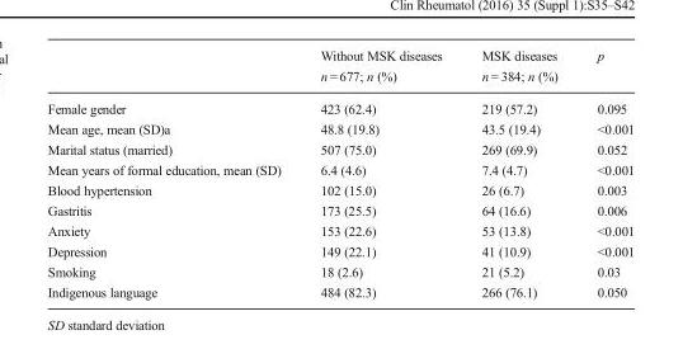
<table><thead><tr><td></td><td>Without MSK diseases n = 677; n (%)</td><td>MSK diseases n = 384; n (%)</td><td>p</td></tr></thead><tbody><tr><td>Female gender</td><td>423 (62.4)</td><td>219 (57.2)</td><td>0.095</td></tr><tr><td>Mean age, mean (SD)a</td><td>48.8 (19.8)</td><td>43.5 (19.4)</td><td>&lt;0.001</td></tr><tr><td>Marital status (married)</td><td>507 (75.0)</td><td>269 (69.9)</td><td>0.052</td></tr><tr><td>Mean years of formal education, mean (SD)</td><td>6.4 (4.6)</td><td>7.4 (4.7)</td><td>&lt;0.001</td></tr><tr><td>Blood hypertension</td><td>102 (15.0)</td><td>26 (6.7)</td><td>0.003</td></tr><tr><td>Gastritis</td><td>173 (25.5)</td><td>64 (16.6)</td><td>0.006</td></tr><tr><td>Anxiety</td><td>153 (22.6)</td><td>53 (13.8)</td><td>&lt;0.001</td></tr><tr><td>Depression</td><td>149 (22.1)</td><td>41 (10.9)</td><td>&lt;0.001</td></tr><tr><td>Smoking</td><td>18 (2.6)</td><td>21 (5.2)</td><td>0.03</td></tr><tr><td>Indigenous language</td><td>484 (82.3)</td><td>266 (76.1)</td><td>0.050</td></tr></tbody></table>